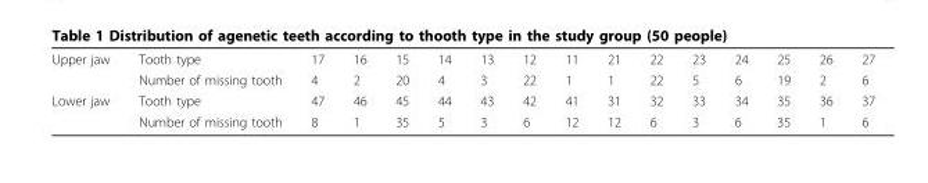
<table><tbody><tr><td rowspan="2">Upper jaw</td><td>Tooth type</td><td>17</td><td>16</td><td>15</td><td>14</td><td>13</td><td>12</td><td>11</td><td>21</td><td>22</td><td>23</td><td>24</td><td>25</td><td>26</td><td>27</td></tr><tr><td>Number of missing tooth</td><td>4</td><td>2</td><td>20</td><td>4</td><td>3</td><td>22</td><td>1</td><td>1</td><td>22</td><td>5</td><td>6</td><td>19</td><td>2</td><td>6</td></tr><tr><td rowspan="2">Lower jaw</td><td>Tooth type</td><td>47</td><td>46</td><td>45</td><td>44</td><td>43</td><td>42</td><td>41</td><td>31</td><td>32</td><td>33</td><td>34</td><td>35</td><td>36</td><td>37</td></tr><tr><td>Number of missing tooth</td><td>8</td><td>1</td><td>35</td><td>5</td><td>3</td><td>6</td><td>12</td><td>12</td><td>6</td><td>3</td><td>6</td><td>35</td><td>1</td><td>6</td></tr></tbody></table>